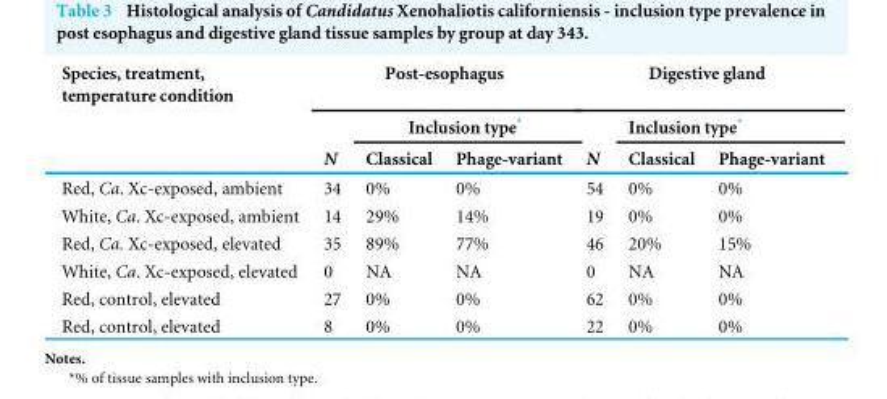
<table><thead><tr><td rowspan="3">Species, treatment, temperature condition</td><td colspan="3">Post-esophagus</td><td colspan="3">Digestive gland</td></tr><tr><td rowspan="2">N</td><td colspan="2">Inclusion type*</td><td rowspan="2">N</td><td colspan="2">Inclusion type*</td></tr><tr><td>Classical</td><td>Phage-variant</td><td>Classical</td><td>Phage-variant</td></tr></thead><tbody><tr><td>Red, Ca. Xc-exposed, ambient</td><td>34</td><td>0%</td><td>0%</td><td>54</td><td>0%</td><td>0%</td></tr><tr><td>White, Ca. Xc-exposed, ambient</td><td>14</td><td>29%</td><td>14%</td><td>19</td><td>0%</td><td>0%</td></tr><tr><td>Red, Ca. Xc-exposed, elevated</td><td>35</td><td>89%</td><td>77%</td><td>46</td><td>20%</td><td>15%</td></tr><tr><td>White, Ca. Xc-exposed, elevated</td><td>0</td><td>NA</td><td>NA</td><td>0</td><td>NA</td><td>NA</td></tr><tr><td>Red, control, elevated</td><td>27</td><td>0%</td><td>0%</td><td>62</td><td>0%</td><td>0%</td></tr><tr><td>Red, control, elevated</td><td>8</td><td>0%</td><td>0%</td><td>22</td><td>0%</td><td>0%</td></tr></tbody></table>